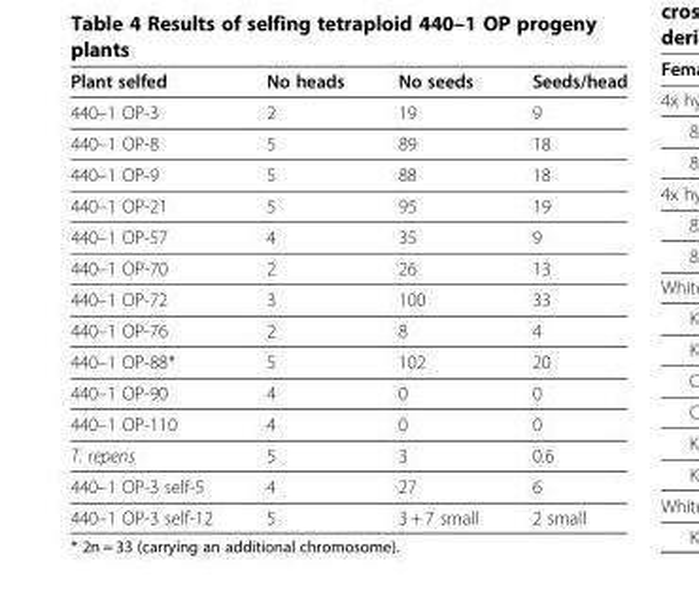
<table><thead><tr><td>Plant selfed</td><td>No heads</td><td>No seeds</td><td>Seeds/head</td></tr></thead><tbody><tr><td>440–1 OP-3</td><td>2</td><td>19</td><td>9</td></tr><tr><td>440–1 OP-8</td><td>5</td><td>89</td><td>18</td></tr><tr><td>440–1 OP-9</td><td>5</td><td>88</td><td>18</td></tr><tr><td>440–1 OP-21</td><td>5</td><td>95</td><td>19</td></tr><tr><td>440–1 OP-57</td><td>4</td><td>35</td><td>9</td></tr><tr><td>440–1 OP-70</td><td>2</td><td>26</td><td>13</td></tr><tr><td>440–1 OP-72</td><td>3</td><td>100</td><td>33</td></tr><tr><td>440–1 OP-76</td><td>2</td><td>8</td><td>4</td></tr><tr><td>440–1 OP-88*</td><td>5</td><td>102</td><td>20</td></tr><tr><td>440–1 OP-90</td><td>4</td><td>0</td><td>0</td></tr><tr><td>440–1 OP-110</td><td>4</td><td>0</td><td>0</td></tr><tr><td>T. repens</td><td>5</td><td>3</td><td>0.6</td></tr><tr><td>440–1 OP-3 self-5</td><td>4</td><td>27</td><td>6</td></tr><tr><td>440–1 OP-3 self-12</td><td>5</td><td>3 + 7 small</td><td>2 small</td></tr></tbody></table>